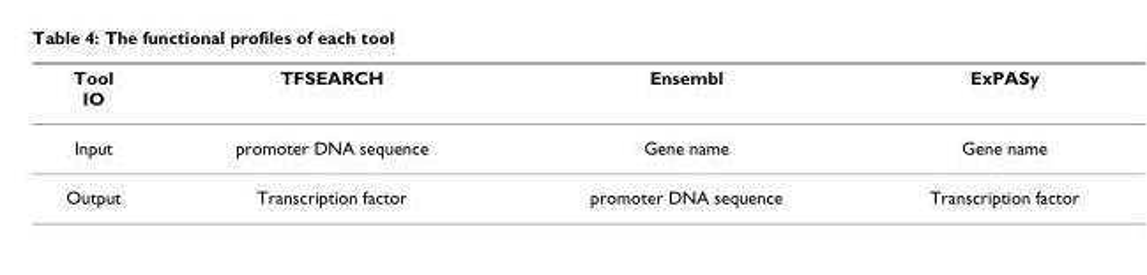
<table><thead><tr><td>Tool IO</td><td>TFSEARCH</td><td>Ensembl</td><td>ExPASy</td></tr></thead><tbody><tr><td>Input</td><td>promoter DNA sequence</td><td>Gene name</td><td>Gene name</td></tr><tr><td>Output</td><td>Transcription factor</td><td>promoter DNA sequence</td><td>Transcription factor</td></tr></tbody></table>